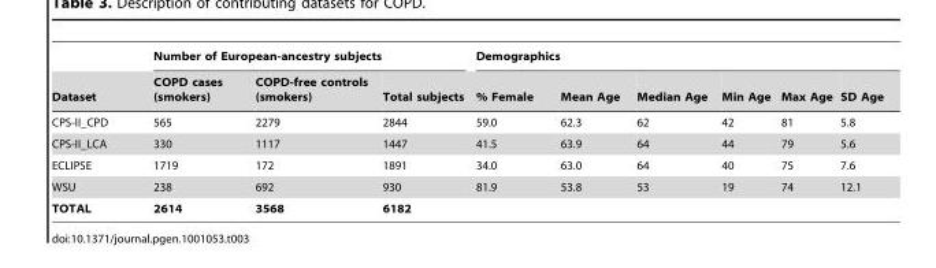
<table><thead><tr><td rowspan="2">Dataset</td><td colspan="3">Number of European-ancestry subjects</td><td colspan="6">Demographics</td></tr><tr><td>COPD cases (smokers)</td><td>COPD-free controls (smokers)</td><td>Total subjects</td><td>% Female</td><td>Mean Age</td><td>Median Age</td><td>Min Age</td><td>Max Age</td><td>SD Age</td></tr></thead><tbody><tr><td>CPS-II_CPD</td><td>565</td><td>2279</td><td>2844</td><td>59.0</td><td>62.3</td><td>62</td><td>42</td><td>81</td><td>5.8</td></tr><tr><td>CPS-II_LCA</td><td>330</td><td>1117</td><td>1447</td><td>41.5</td><td>63.9</td><td>64</td><td>44</td><td>79</td><td>5.6</td></tr><tr><td>ECLIPSE</td><td>1719</td><td>172</td><td>1891</td><td>34.0</td><td>63.0</td><td>64</td><td>40</td><td>75</td><td>7.6</td></tr><tr><td>WSU</td><td>238</td><td>692</td><td>930</td><td>81.9</td><td>53.8</td><td>53</td><td>19</td><td>74</td><td>12.1</td></tr><tr><td>TOTAL</td><td>2614</td><td>3568</td><td>6182</td><td></td><td></td><td></td><td></td><td></td><td></td></tr></tbody></table>